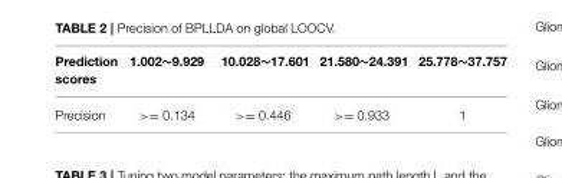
<table><thead><tr><td>Prediction scores</td><td>1.002∼9.929</td><td>10.028∼17.601</td><td>21.580∼24.391</td><td>25.778∼37.757</td></tr></thead><tbody><tr><td>Precision</td><td>&gt;= 0.134</td><td>&gt;= 0.446</td><td>&gt;= 0.933</td><td>1</td></tr></tbody></table>